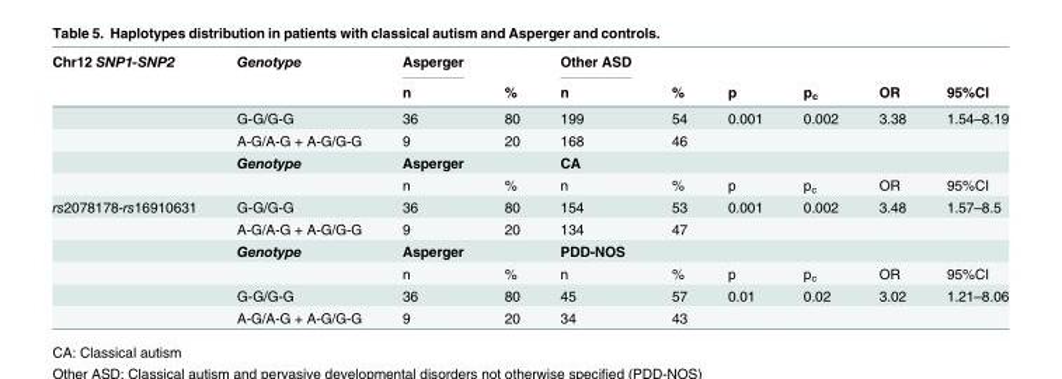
<table><thead><tr><td rowspan="2">Chr12 SNP1-SNP2</td><td rowspan="2">Genotype</td><td rowspan="2">Asperger n</td><td rowspan="2">%</td><td rowspan="2">Other ASD n</td><td rowspan="2">%</td><td rowspan="2">p</td><td rowspan="2">p<sub>c</sub></td><td rowspan="2">OR</td><td rowspan="2">95%CI</td></tr><tr></tr></thead><tbody><tr><td></td><td>G-G/G-G</td><td>36</td><td>80</td><td>199</td><td>54</td><td>0.001</td><td>0.002</td><td>3.38</td><td>1.54–8.19</td></tr><tr><td></td><td>A-G/A-G + A-G/G-G</td><td>9</td><td>20</td><td>168</td><td>46</td><td></td><td></td><td></td><td></td></tr><tr><td></td><td>Genotype</td><td>Asperger</td><td></td><td>CA</td><td></td><td></td><td></td><td></td><td></td></tr><tr><td></td><td></td><td>n</td><td>%</td><td>n</td><td>%</td><td>p</td><td>p<sub>c</sub></td><td>OR</td><td>95%CI</td></tr><tr><td rowspan="6">rs2078178-rs16910631</td><td>G-G/G-G</td><td>36</td><td>80</td><td>154</td><td>53</td><td>0.001</td><td>0.002</td><td>3.48</td><td>1.57–8.5</td></tr><tr><td>A-G/A-G + A-G/G-G</td><td>9</td><td>20</td><td>134</td><td>47</td><td></td><td></td><td></td><td></td></tr><tr><td>Genotype</td><td>Asperger</td><td></td><td>PDD-NOS</td><td></td><td></td><td></td><td></td><td></td></tr><tr><td></td><td>n</td><td>%</td><td>n</td><td>%</td><td>p</td><td>p<sub>c</sub></td><td>OR</td><td>95%CI</td></tr><tr><td>G-G/G-G</td><td>36</td><td>80</td><td>45</td><td>57</td><td>0.01</td><td>0.02</td><td>3.02</td><td>1.21–8.06</td></tr><tr><td>A-G/A-G + A-G/G-G</td><td>9</td><td>20</td><td>34</td><td>43</td><td></td><td></td><td></td><td></td></tr></tbody></table>